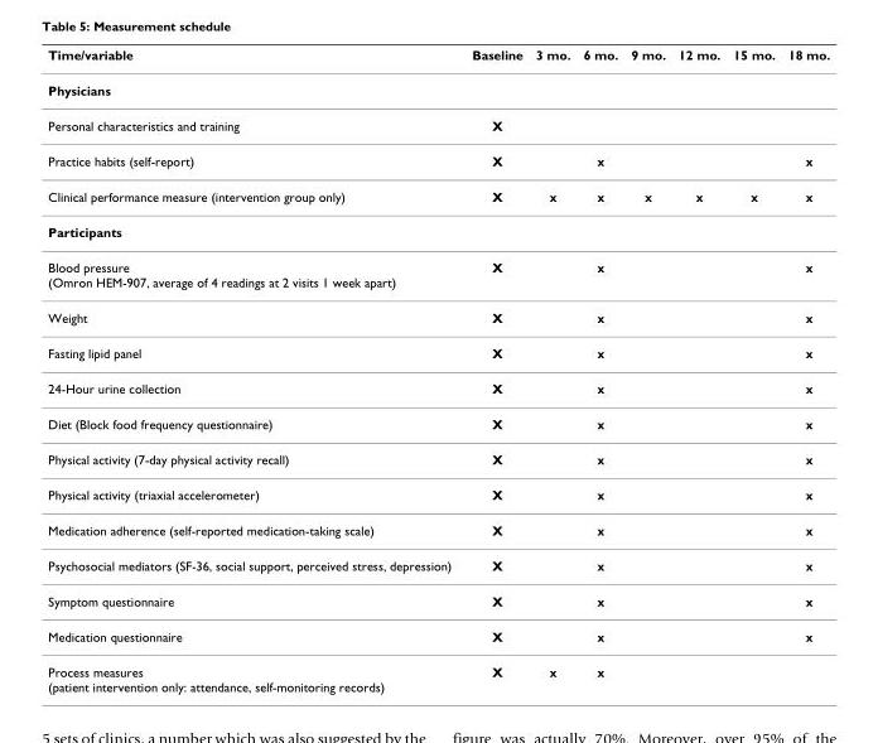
<table><thead><tr><td>Time/variable</td><td>Baseline</td><td>3 mo.</td><td>6 mo.</td><td>9 mo.</td><td>12 mo.</td><td>15 mo.</td><td>18 mo.</td></tr></thead><tbody><tr><td colspan="8">Physicians</td></tr><tr><td>Personal characteristics and training</td><td>X</td><td></td><td></td><td></td><td></td><td></td><td></td></tr><tr><td>Practice habits (self-report)</td><td>X</td><td></td><td>x</td><td></td><td></td><td></td><td>x</td></tr><tr><td>Clinical performance measure (intervention group only)</td><td>X</td><td>x</td><td>x</td><td>x</td><td>x</td><td>x</td><td>x</td></tr><tr><td colspan="8">Participants</td></tr><tr><td>Blood pressure (Omron HEM-907, average of 4 readings at 2 visits 1 week apart)</td><td>X</td><td></td><td>x</td><td></td><td></td><td></td><td>x</td></tr><tr><td>Weight</td><td>X</td><td></td><td>x</td><td></td><td></td><td></td><td>x</td></tr><tr><td>Fasting lipid panel</td><td>X</td><td></td><td>x</td><td></td><td></td><td></td><td>x</td></tr><tr><td>24-Hour urine collection</td><td>X</td><td></td><td>x</td><td></td><td></td><td></td><td>x</td></tr><tr><td>Diet (Block food frequency questionnaire)</td><td>X</td><td></td><td>x</td><td></td><td></td><td></td><td>x</td></tr><tr><td>Physical activity (7-day physical activity recall)</td><td>X</td><td></td><td>x</td><td></td><td></td><td></td><td>x</td></tr><tr><td>Physical activity (triaxial accelerometer)</td><td>X</td><td></td><td>x</td><td></td><td></td><td></td><td>x</td></tr><tr><td>Medication adherence (self-reported medication-taking scale)</td><td>X</td><td></td><td>x</td><td></td><td></td><td></td><td>x</td></tr><tr><td>Psychosocial mediators (SF-36, social support, perceived stress, depression)</td><td>X</td><td></td><td>x</td><td></td><td></td><td></td><td>x</td></tr><tr><td>Symptom questionnaire</td><td>X</td><td></td><td>x</td><td></td><td></td><td></td><td>x</td></tr><tr><td>Medication questionnaire</td><td>X</td><td></td><td>x</td><td></td><td></td><td></td><td>x</td></tr><tr><td>Process measures (patient intervention only: attendance, self-monitoring records)</td><td>X</td><td>x</td><td>x</td><td></td><td></td><td></td><td></td></tr></tbody></table>